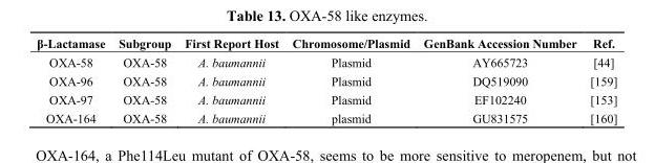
<table><thead><tr><td>β-Lactamase</td><td>Subgroup</td><td>First Report Host</td><td>Chromosome/Plasmid</td><td>GenBank Accession Number</td><td>Ref.</td></tr></thead><tbody><tr><td>OXA-58</td><td>OXA-58</td><td>A. baumannii</td><td>Plasmid</td><td>AY665723</td><td>[44]</td></tr><tr><td>OXA-96</td><td>OXA-58</td><td>A. baumannii</td><td>Plasmid</td><td>DQ519090</td><td>[159]</td></tr><tr><td>OXA-97</td><td>OXA-58</td><td>A. baumannii</td><td>Plasmid</td><td>EF102240</td><td>[153]</td></tr><tr><td>OXA-164</td><td>OXA-58</td><td>A. baumannii</td><td>plasmid</td><td>GU831575</td><td>[160]</td></tr></tbody></table>